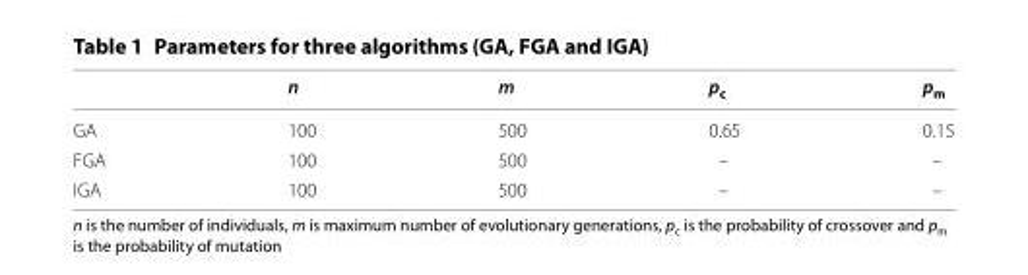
<table><thead><tr><td></td><td>n</td><td>m</td><td>p<sub>c</sub></td><td>p<sub>m</sub></td></tr></thead><tbody><tr><td>GA</td><td>100</td><td>500</td><td>0.65</td><td>0.15</td></tr><tr><td>FGA</td><td>100</td><td>500</td><td>–</td><td>–</td></tr><tr><td>IGA</td><td>100</td><td>500</td><td>–</td><td>–</td></tr></tbody></table>